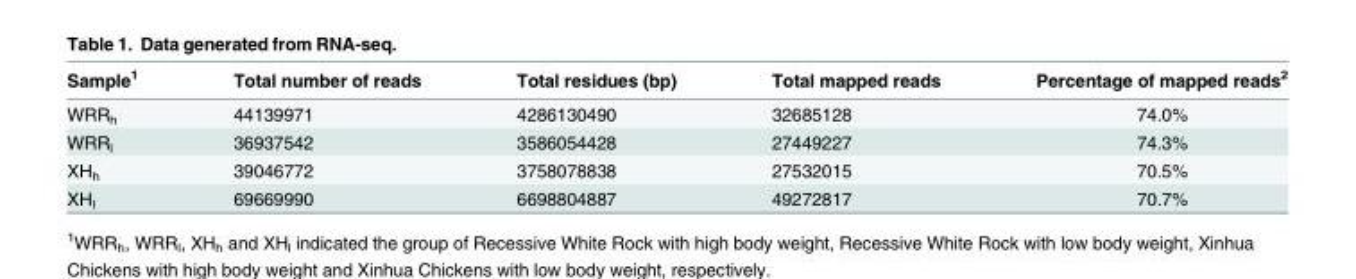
<table><thead><tr><td>Sample<sup>1</sup></td><td>Total number of reads</td><td>Total residues (bp)</td><td>Total mapped reads</td><td>Percentage of mapped reads<sup>2</sup></td></tr></thead><tbody><tr><td>WRR<sub>h</sub></td><td>44139971</td><td>4286130490</td><td>32685128</td><td>74.0%</td></tr><tr><td>WRR<sub>l</sub></td><td>36937542</td><td>3586054428</td><td>27449227</td><td>74.3%</td></tr><tr><td>XH<sub>h</sub></td><td>39046772</td><td>3758078838</td><td>27532015</td><td>70.5%</td></tr><tr><td>XH<sub>l</sub></td><td>69669990</td><td>6698804887</td><td>49272817</td><td>70.7%</td></tr></tbody></table>